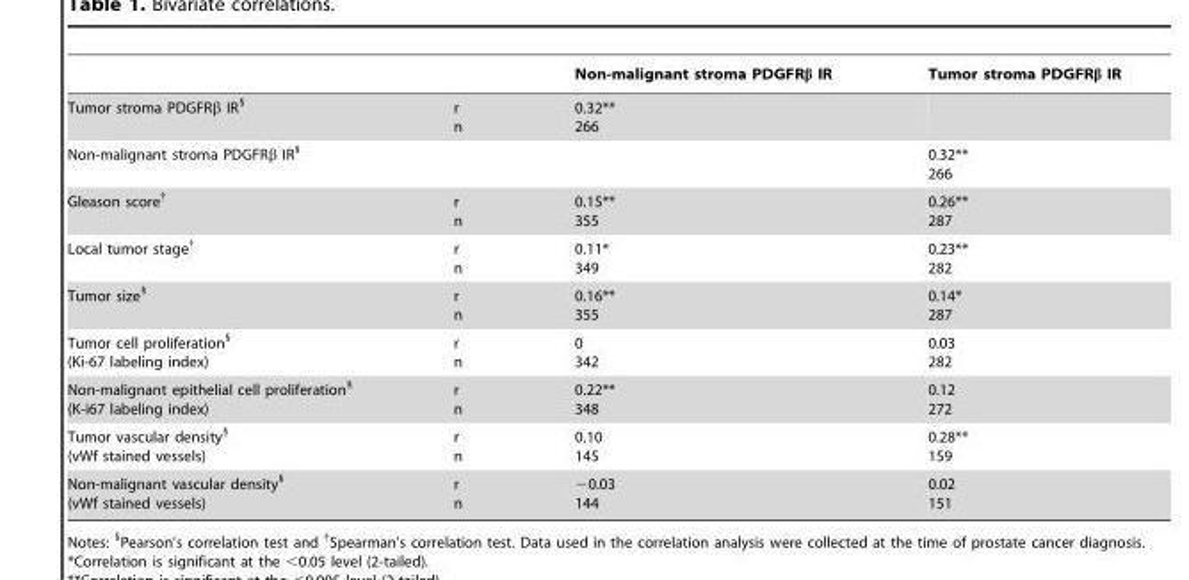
<table><thead><tr><td></td><td></td><td>Non-malignant stroma PDGFRβ IR</td><td>Tumor stroma PDGFRβ IR</td></tr></thead><tbody><tr><td>Tumor stroma PDGFRβ IR<sup>§</sup></td><td>r n</td><td>0.32** 266</td><td></td></tr><tr><td>Non-malignant stroma PDGFRβ IR<sup>§</sup></td><td></td><td></td><td>0.32** 266</td></tr><tr><td>Gleason score<sup>†</sup></td><td>r n</td><td>0.15** 355</td><td>0.26** 287</td></tr><tr><td>Local tumor stage<sup>†</sup></td><td>r n</td><td>0.11* 349</td><td>0.23** 282</td></tr><tr><td>Tumor size<sup>§</sup></td><td>r n</td><td>0.16** 355</td><td>0.14* 287</td></tr><tr><td>Tumor cell proliferation<sup>§</sup> (Ki-67 labeling index)</td><td>r n</td><td>0 342</td><td>0.03 282</td></tr><tr><td>Non-malignant epithelial cell proliferation<sup>§</sup> (K-i67 labeling index)</td><td>r n</td><td>0.22** 348</td><td>0.12 272</td></tr><tr><td>Tumor vascular density<sup>§</sup> (vWf stained vessels)</td><td>r n</td><td>0.10 145</td><td>0.28** 159</td></tr><tr><td>Non-malignant vascular density<sup>§</sup> (vWf stained vessels)</td><td>r n</td><td>−0.03 144</td><td>0.02 151</td></tr></tbody></table>